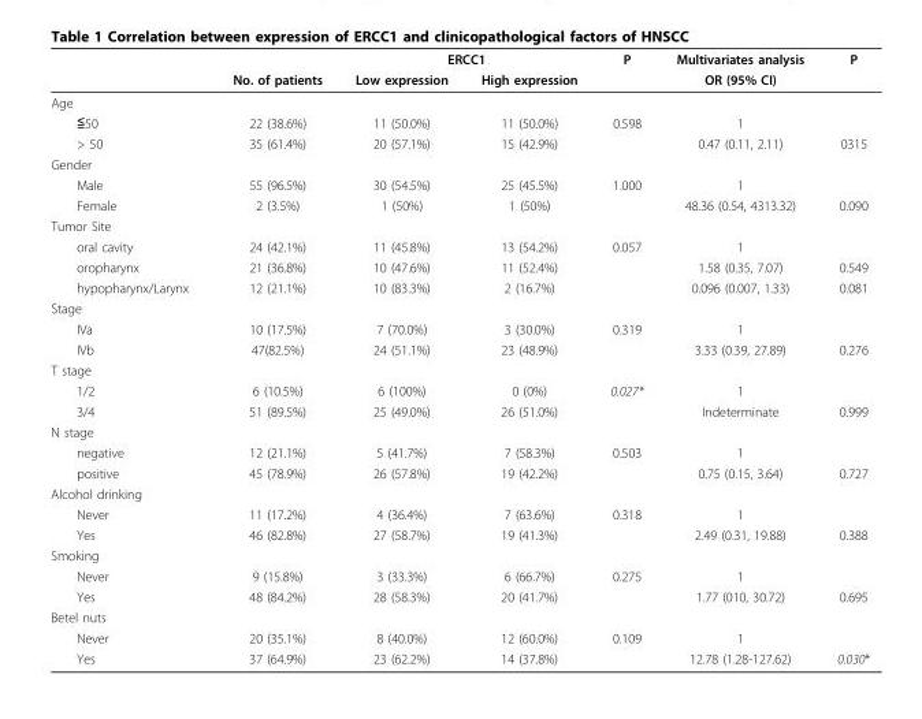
<table><thead><tr><td rowspan="2"></td><td rowspan="2">No. of patients</td><td colspan="2">ERCC1</td><td rowspan="2">P</td><td rowspan="2">Multivariates analysis OR (95% CI)</td><td rowspan="2">P</td></tr><tr><td>Low expression</td><td>High expression</td></tr></thead><tbody><tr><td colspan="7">Age</td></tr><tr><td>≦50</td><td>22 (38.6%)</td><td>11 (50.0%)</td><td>11 (50.0%)</td><td>0.598</td><td>1</td><td></td></tr><tr><td>&gt; 50</td><td>35 (61.4%)</td><td>20 (57.1%)</td><td>15 (42.9%)</td><td></td><td>0.47 (0.11, 2.11)</td><td>0315</td></tr><tr><td colspan="7">Gender</td></tr><tr><td>Male</td><td>55 (96.5%)</td><td>30 (54.5%)</td><td>25 (45.5%)</td><td>1.000</td><td>1</td><td></td></tr><tr><td>Female</td><td>2 (3.5%)</td><td>1 (50%)</td><td>1 (50%)</td><td></td><td>48.36 (0.54, 4313.32)</td><td>0.090</td></tr><tr><td colspan="7">Tumor Site</td></tr><tr><td>oral cavity</td><td>24 (42.1%)</td><td>11 (45.8%)</td><td>13 (54.2%)</td><td>0.057</td><td>1</td><td></td></tr><tr><td>oropharynx</td><td>21 (36.8%)</td><td>10 (47.6%)</td><td>11 (52.4%)</td><td></td><td>1.58 (0.35, 7.07)</td><td>0.549</td></tr><tr><td>hypopharynx/Larynx</td><td>12 (21.1%)</td><td>10 (83.3%)</td><td>2 (16.7%)</td><td></td><td>0.096 (0.007, 1.33)</td><td>0.081</td></tr><tr><td colspan="7">Stage</td></tr><tr><td>IVa</td><td>10 (17.5%)</td><td>7 (70.0%)</td><td>3 (30.0%)</td><td>0.319</td><td>1</td><td></td></tr><tr><td>IVb</td><td>47(82.5%)</td><td>24 (51.1%)</td><td>23 (48.9%)</td><td></td><td>3.33 (0.39, 27.89)</td><td>0.276</td></tr><tr><td colspan="7">T stage</td></tr><tr><td>1/2</td><td>6 (10.5%)</td><td>6 (100%)</td><td>0 (0%)</td><td>0.027*</td><td>1</td><td></td></tr><tr><td>3/4</td><td>51 (89.5%)</td><td>25 (49.0%)</td><td>26 (51.0%)</td><td></td><td>Indeterminate</td><td>0.999</td></tr><tr><td colspan="7">N stage</td></tr><tr><td>negative</td><td>12 (21.1%)</td><td>5 (41.7%)</td><td>7 (58.3%)</td><td>0.503</td><td>1</td><td></td></tr><tr><td>positive</td><td>45 (78.9%)</td><td>26 (57.8%)</td><td>19 (42.2%)</td><td></td><td>0.75 (0.15, 3.64)</td><td>0.727</td></tr><tr><td colspan="7">Alcohol drinking</td></tr><tr><td>Never</td><td>11 (17.2%)</td><td>4 (36.4%)</td><td>7 (63.6%)</td><td>0.318</td><td>1</td><td></td></tr><tr><td>Yes</td><td>46 (82.8%)</td><td>27 (58.7%)</td><td>19 (41.3%)</td><td></td><td>2.49 (0.31, 19.88)</td><td>0.388</td></tr><tr><td colspan="7">Smoking</td></tr><tr><td>Never</td><td>9 (15.8%)</td><td>3 (33.3%)</td><td>6 (66.7%)</td><td>0.275</td><td>1</td><td></td></tr><tr><td>Yes</td><td>48 (84.2%)</td><td>28 (58.3%)</td><td>20 (41.7%)</td><td></td><td>1.77 (010, 30.72)</td><td>0.695</td></tr><tr><td colspan="7">Betel nuts</td></tr><tr><td>Never</td><td>20 (35.1%)</td><td>8 (40.0%)</td><td>12 (60.0%)</td><td>0.109</td><td>1</td><td></td></tr><tr><td>Yes</td><td>37 (64.9%)</td><td>23 (62.2%)</td><td>14 (37.8%)</td><td></td><td>12.78 (1.28-127.62)</td><td>0.030*</td></tr></tbody></table>